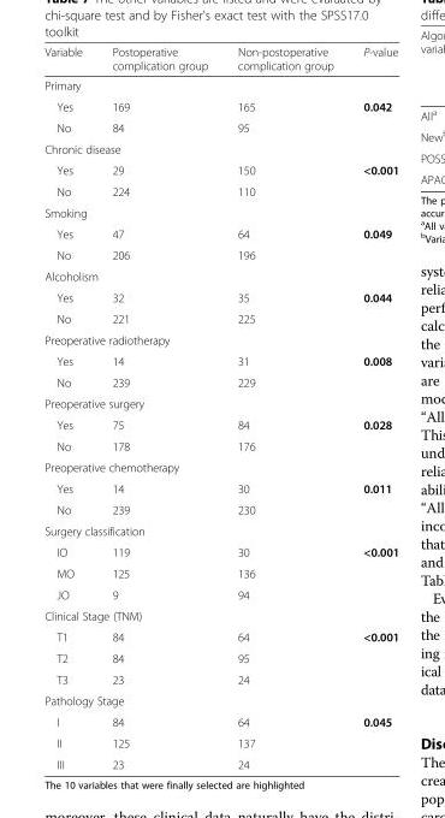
<table><thead><tr><td>Variable</td><td>Postoperative complication group</td><td>Non-postoperative complication group</td><td>P-value</td></tr></thead><tbody><tr><td colspan="4">Primary</td></tr><tr><td>Yes</td><td>169</td><td>165</td><td>0.042</td></tr><tr><td>No</td><td>84</td><td>95</td><td></td></tr><tr><td colspan="4">Chronic disease</td></tr><tr><td>Yes</td><td>29</td><td>150</td><td>&lt;0.001</td></tr><tr><td>No</td><td>224</td><td>110</td><td></td></tr><tr><td colspan="4">Smoking</td></tr><tr><td>Yes</td><td>47</td><td>64</td><td>0.049</td></tr><tr><td>No</td><td>206</td><td>196</td><td></td></tr><tr><td colspan="4">Alcoholism</td></tr><tr><td>Yes</td><td>32</td><td>35</td><td>0.044</td></tr><tr><td>No</td><td>221</td><td>225</td><td></td></tr><tr><td colspan="4">Preoperative radiotherapy</td></tr><tr><td>Yes</td><td>14</td><td>31</td><td>0.008</td></tr><tr><td>No</td><td>239</td><td>229</td><td></td></tr><tr><td colspan="4">Preoperative surgery</td></tr><tr><td>Yes</td><td>75</td><td>84</td><td>0.028</td></tr><tr><td>No</td><td>178</td><td>176</td><td></td></tr><tr><td colspan="4">Preoperative chemotherapy</td></tr><tr><td>Yes</td><td>14</td><td>30</td><td>0.011</td></tr><tr><td>No</td><td>239</td><td>230</td><td></td></tr><tr><td colspan="4">Surgery classification</td></tr><tr><td>IO</td><td>119</td><td>30</td><td>&lt;0.001</td></tr><tr><td>MO</td><td>125</td><td>136</td><td></td></tr><tr><td>JO</td><td>9</td><td>94</td><td></td></tr><tr><td colspan="4">Clinical Stage (TNM)</td></tr><tr><td>T1</td><td>84</td><td>64</td><td>&lt;0.001</td></tr><tr><td>T2</td><td>84</td><td>95</td><td></td></tr><tr><td>T3</td><td>23</td><td>24</td><td></td></tr><tr><td colspan="4">Pathology Stage</td></tr><tr><td>I</td><td>84</td><td>64</td><td>0.045</td></tr><tr><td>II</td><td>125</td><td>137</td><td></td></tr><tr><td>III</td><td>23</td><td>24</td><td></td></tr></tbody></table>